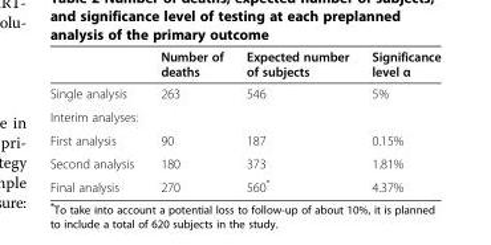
<table><thead><tr><td></td><td>Number of deaths</td><td>Expected number of subjects</td><td>Significance level α</td></tr></thead><tbody><tr><td>Single analysis</td><td>263</td><td>546</td><td>5%</td></tr><tr><td colspan="4">Interim analyses:</td></tr><tr><td>First analysis</td><td>90</td><td>187</td><td>0.15%</td></tr><tr><td>Second analysis</td><td>180</td><td>373</td><td>1.81%</td></tr><tr><td>Final analysis</td><td>270</td><td>560*</td><td>4.37%</td></tr></tbody></table>